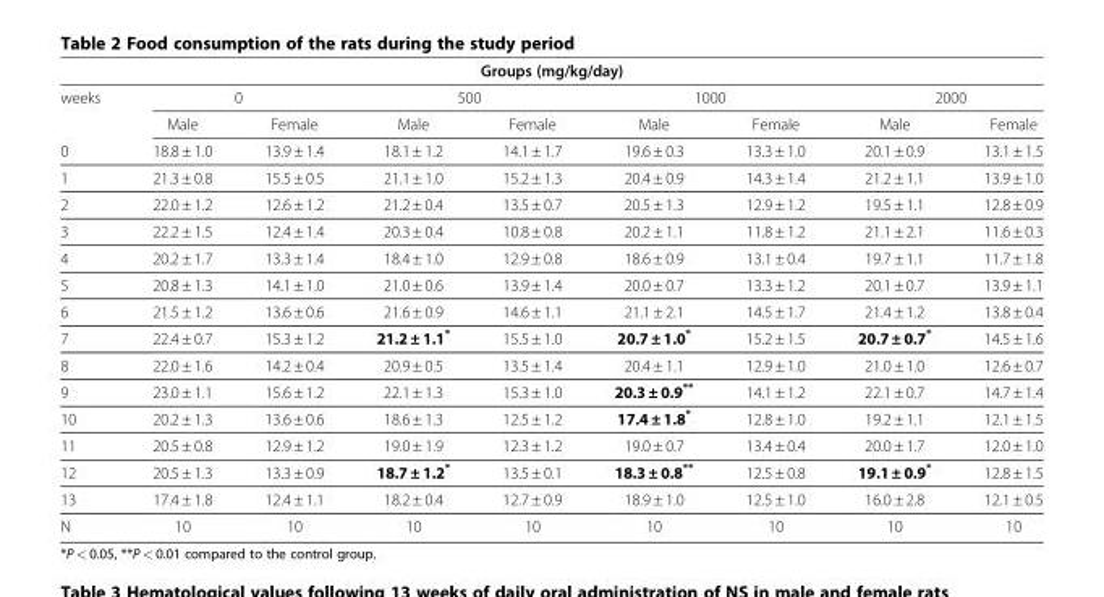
<table><thead><tr><td colspan="9">Groups (mg/kg/day)</td></tr><tr><td rowspan="2">weeks</td><td colspan="2">0</td><td colspan="2">500</td><td colspan="2">1000</td><td colspan="2">2000</td></tr><tr><td>Male</td><td>Female</td><td>Male</td><td>Female</td><td>Male</td><td>Female</td><td>Male</td><td>Female</td></tr></thead><tbody><tr><td>0</td><td>18.8 ± 1.0</td><td>13.9 ± 1.4</td><td>18.1 ± 1.2</td><td>14.1 ± 1.7</td><td>19.6 ± 0.3</td><td>13.3 ± 1.0</td><td>20.1 ± 0.9</td><td>13.1 ± 1.5</td></tr><tr><td>1</td><td>21.3 ± 0.8</td><td>15.5 ± 0.5</td><td>21.1 ± 1.0</td><td>15.2 ± 1.3</td><td>20.4 ± 0.9</td><td>14.3 ± 1.4</td><td>21.2 ± 1.1</td><td>13.9 ± 1.0</td></tr><tr><td>2</td><td>22.0 ± 1.2</td><td>12.6 ± 1.2</td><td>21.2 ± 0.4</td><td>13.5 ± 0.7</td><td>20.5 ± 1.3</td><td>12.9 ± 1.2</td><td>19.5 ± 1.1</td><td>12.8 ± 0.9</td></tr><tr><td>3</td><td>22.2 ± 1.5</td><td>12.4 ± 1.4</td><td>20.3 ± 0.4</td><td>10.8 ± 0.8</td><td>20.2 ± 1.1</td><td>11.8 ± 1.2</td><td>21.1 ± 2.1</td><td>11.6 ± 0.3</td></tr><tr><td>4</td><td>20.2 ± 1.7</td><td>13.3 ± 1.4</td><td>18.4 ± 1.0</td><td>12.9 ± 0.8</td><td>18.6 ± 0.9</td><td>13.1 ± 0.4</td><td>19.7 ± 1.1</td><td>11.7 ± 1.8</td></tr><tr><td>5</td><td>20.8 ± 1.3</td><td>14.1 ± 1.0</td><td>21.0 ± 0.6</td><td>13.9 ± 1.4</td><td>20.0 ± 0.7</td><td>13.3 ± 1.2</td><td>20.1 ± 0.7</td><td>13.9 ± 1.1</td></tr><tr><td>6</td><td>21.5 ± 1.2</td><td>13.6 ± 0.6</td><td>21.6 ± 0.9</td><td>14.6 ± 1.1</td><td>21.1 ± 2.1</td><td>14.5 ± 1.7</td><td>21.4 ± 1.2</td><td>13.8 ± 0.4</td></tr><tr><td>7</td><td>22.4 ± 0.7</td><td>15.3 ± 1.2</td><td>21.2 ± 1.1*</td><td>15.5 ± 1.0</td><td>20.7 ± 1.0*</td><td>15.2 ± 1.5</td><td>20.7 ± 0.7*</td><td>14.5 ± 1.6</td></tr><tr><td>8</td><td>22.0 ± 1.6</td><td>14.2 ± 0.4</td><td>20.9 ± 0.5</td><td>13.5 ± 1.4</td><td>20.4 ± 1.1</td><td>12.9 ± 1.0</td><td>21.0 ± 1.0</td><td>12.6 ± 0.7</td></tr><tr><td>9</td><td>23.0 ± 1.1</td><td>15.6 ± 1.2</td><td>22.1 ± 1.3</td><td>15.3 ± 1.0</td><td>20.3 ± 0.9**</td><td>14.1 ± 1.2</td><td>22.1 ± 0.7</td><td>14.7 ± 1.4</td></tr><tr><td>10</td><td>20.2 ± 1.3</td><td>13.6 ± 0.6</td><td>18.6 ± 1.3</td><td>12.5 ± 1.2</td><td>17.4 ± 1.8*</td><td>12.8 ± 1.0</td><td>19.2 ± 1.1</td><td>12.1 ± 1.5</td></tr><tr><td>11</td><td>20.5 ± 0.8</td><td>12.9 ± 1.2</td><td>19.0 ± 1.9</td><td>12.3 ± 1.2</td><td>19.0 ± 0.7</td><td>13.4 ± 0.4</td><td>20.0 ± 1.7</td><td>12.0 ± 1.0</td></tr><tr><td>12</td><td>20.5 ± 1.3</td><td>13.3 ± 0.9</td><td>18.7 ± 1.2*</td><td>13.5 ± 0.1</td><td>18.3 ± 0.8**</td><td>12.5 ± 0.8</td><td>19.1 ± 0.9*</td><td>12.8 ± 1.5</td></tr><tr><td>13</td><td>17.4 ± 1.8</td><td>12.4 ± 1.1</td><td>18.2 ± 0.4</td><td>12.7 ± 0.9</td><td>18.9 ± 1.0</td><td>12.5 ± 1.0</td><td>16.0 ± 2.8</td><td>12.1 ± 0.5</td></tr><tr><td>N</td><td>10</td><td>10</td><td>10</td><td>10</td><td>10</td><td>10</td><td>10</td><td>10</td></tr></tbody></table>